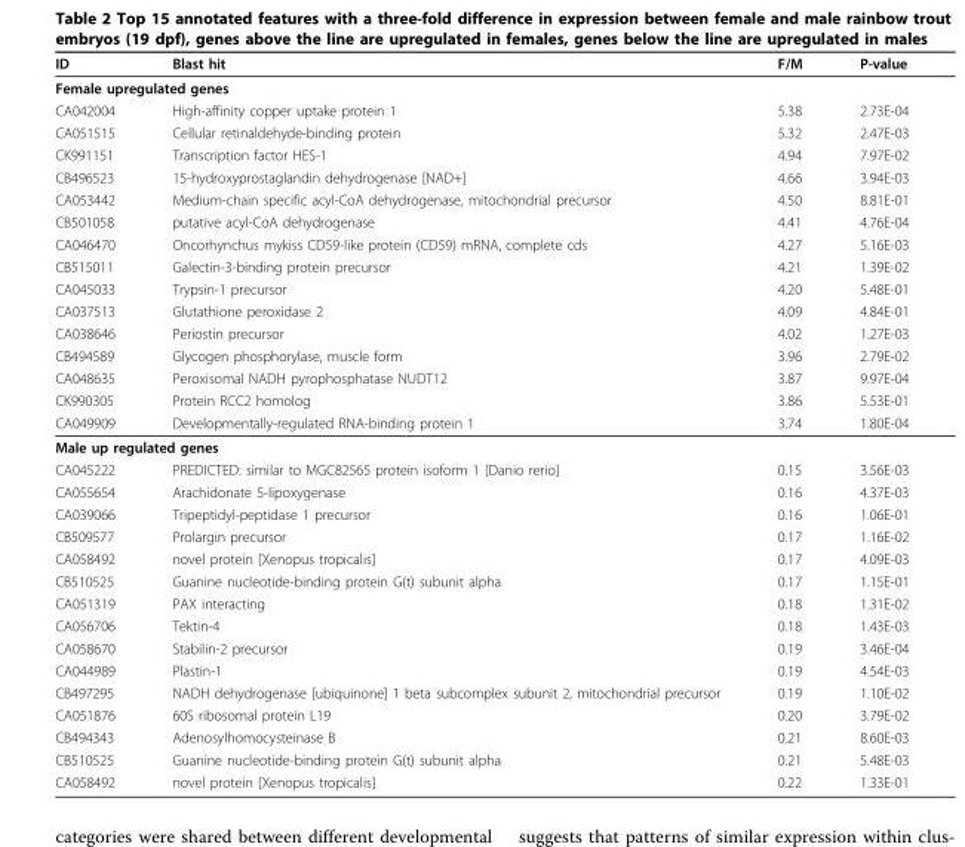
<table><thead><tr><td>ID</td><td>Blast hit</td><td>F/M</td><td>P-value</td></tr></thead><tbody><tr><td colspan="4">Female upregulated genes</td></tr><tr><td>CA042004</td><td>High-affinity copper uptake protein 1</td><td>5.38</td><td>2.73E-04</td></tr><tr><td>CA051515</td><td>Cellular retinaldehyde-binding protein</td><td>5.32</td><td>2.47E-03</td></tr><tr><td>CK991151</td><td>Transcription factor HES-1</td><td>4.94</td><td>7.97E-02</td></tr><tr><td>CB496523</td><td>15-hydroxyprostaglandin dehydrogenase [NAD+]</td><td>4.66</td><td>3.94E-03</td></tr><tr><td>CA053442</td><td>Medium-chain specific acyl-CoA dehydrogenase, mitochondrial precursor</td><td>4.50</td><td>8.81E-01</td></tr><tr><td>CB501058</td><td>putative acyl-CoA dehydrogenase</td><td>4.41</td><td>4.76E-04</td></tr><tr><td>CA046470</td><td>Oncorhynchus mykiss CD59-like protein (CD59) mRNA, complete cds</td><td>4.27</td><td>5.16E-03</td></tr><tr><td>CB515011</td><td>Galectin-3-binding protein precursor</td><td>4.21</td><td>1.39E-02</td></tr><tr><td>CA045033</td><td>Trypsin-1 precursor</td><td>4.20</td><td>5.48E-01</td></tr><tr><td>CA037513</td><td>Glutathione peroxidase 2</td><td>4.09</td><td>4.84E-01</td></tr><tr><td>CA038646</td><td>Periostin precursor</td><td>4.02</td><td>1.27E-03</td></tr><tr><td>CB494589</td><td>Glycogen phosphorylase, muscle form</td><td>3.96</td><td>2.79E-02</td></tr><tr><td>CA048635</td><td>Peroxisomal NADH pyrophosphatase NUDT12</td><td>3.87</td><td>9.97E-04</td></tr><tr><td>CK990305</td><td>Protein RCC2 homolog</td><td>3.86</td><td>5.53E-01</td></tr><tr><td>CA049909</td><td>Developmentally-regulated RNA-binding protein 1</td><td>3.74</td><td>1.80E-04</td></tr><tr><td colspan="4">Male up regulated genes</td></tr><tr><td>CA045222</td><td>PREDICTED: similar to MGC82565 protein isoform 1 [Danio rerio]</td><td>0.15</td><td>3.56E-03</td></tr><tr><td>CA055654</td><td>Arachidonate 5-lipoxygenase</td><td>0.16</td><td>4.37E-03</td></tr><tr><td>CA039066</td><td>Tripeptidyl-peptidase 1 precursor</td><td>0.16</td><td>1.06E-01</td></tr><tr><td>CB509577</td><td>Prolargin precursor</td><td>0.17</td><td>1.16E-02</td></tr><tr><td>CA058492</td><td>novel protein [Xenopus tropicalis]</td><td>0.17</td><td>4.09E-03</td></tr><tr><td>CB510525</td><td>Guanine nucleotide-binding protein G(t) subunit alpha</td><td>0.17</td><td>1.15E-01</td></tr><tr><td>CA051319</td><td>PAX interacting</td><td>0.18</td><td>1.31E-02</td></tr><tr><td>CA056706</td><td>Tektin-4</td><td>0.18</td><td>1.43E-03</td></tr><tr><td>CA058670</td><td>Stabilin-2 precursor</td><td>0.19</td><td>3.46E-04</td></tr><tr><td>CA044989</td><td>Plastin-1</td><td>0.19</td><td>4.54E-03</td></tr><tr><td>CB497295</td><td>NADH dehydrogenase [ubiquinone] 1 beta subcomplex subunit 2, mitochondrial precursor</td><td>0.19</td><td>1.10E-02</td></tr><tr><td>CA051876</td><td>60S ribosomal protein L19</td><td>0.20</td><td>3.79E-02</td></tr><tr><td>CB494343</td><td>Adenosylhomocysteinase B</td><td>0.21</td><td>8.60E-03</td></tr><tr><td>CB510525</td><td>Guanine nucleotide-binding protein G(t) subunit alpha</td><td>0.21</td><td>5.48E-03</td></tr><tr><td>CA058492</td><td>novel protein [Xenopus tropicalis]</td><td>0.22</td><td>1.33E-01</td></tr></tbody></table>